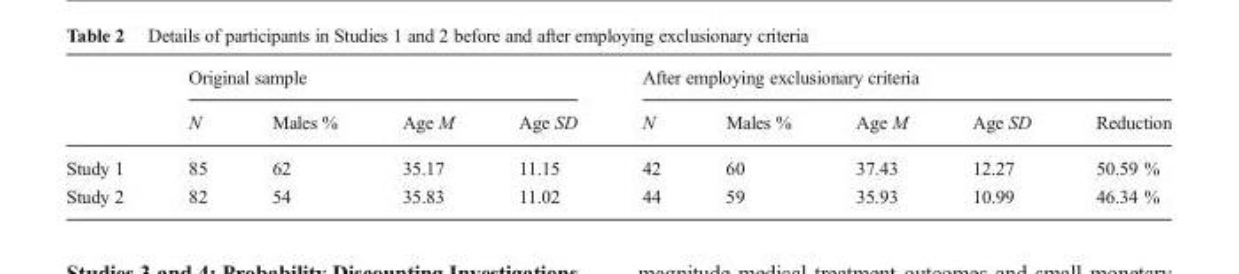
<table><thead><tr><td rowspan="2"></td><td colspan="4">Original sample</td><td colspan="5">After employing exclusionary criteria</td></tr><tr><td>N</td><td>Males %</td><td>Age M</td><td>Age SD</td><td>N</td><td>Males %</td><td>Age M</td><td>Age SD</td><td>Reduction</td></tr></thead><tbody><tr><td>Study 1</td><td>85</td><td>62</td><td>35.17</td><td>11.15</td><td>42</td><td>60</td><td>37.43</td><td>12.27</td><td>50.59 %</td></tr><tr><td>Study 2</td><td>82</td><td>54</td><td>35.83</td><td>11.02</td><td>44</td><td>59</td><td>35.93</td><td>10.99</td><td>46.34 %</td></tr></tbody></table>